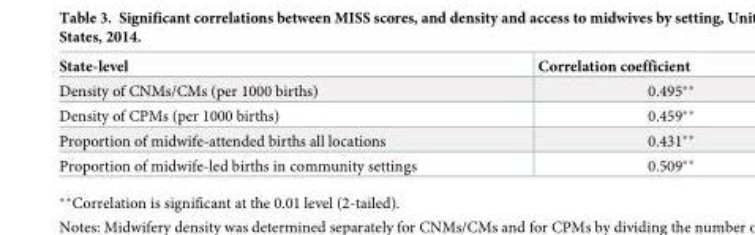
<table><thead><tr><td>State-level</td><td>Correlation coefficient</td></tr></thead><tbody><tr><td>Density of CNMs/CMs (per 1000 births)</td><td>0.495**</td></tr><tr><td>Density of CPMs (per 1000 births)</td><td>0.459**</td></tr><tr><td>Proportion of midwife-attended births all locations</td><td>0.431**</td></tr><tr><td>Proportion of midwife-led births in community settings</td><td>0.509**</td></tr></tbody></table>